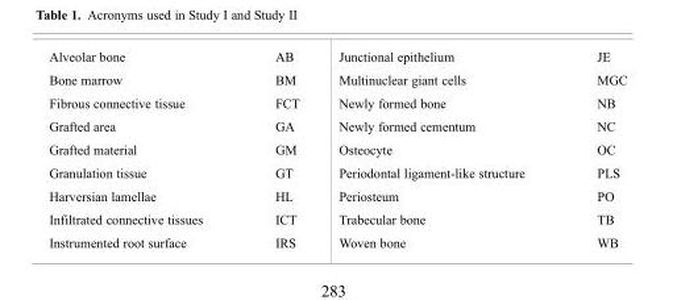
<table><tbody><tr><td>Alveolar bone</td><td>AB</td><td>Junctional epithelium</td><td>JE</td></tr><tr><td>Bone marrow</td><td>BM</td><td>Multinuclear giant cells</td><td>MGC</td></tr><tr><td>Fibrous connective tissue</td><td>FCT</td><td>Newly formed bone</td><td>NB</td></tr><tr><td>Grafted area</td><td>GA</td><td>Newly formed cementum</td><td>NC</td></tr><tr><td>Grafted material</td><td>GM</td><td>Osteocyte</td><td>OC</td></tr><tr><td>Granulation tissue</td><td>GT</td><td>Periodontal ligament-like structure</td><td>PLS</td></tr><tr><td>Harversian lamellae</td><td>HL</td><td>Periosteum</td><td>PO</td></tr><tr><td>Infiltrated connective tissues</td><td>ICT</td><td>Trabecular bone</td><td>TB</td></tr><tr><td>Instrumented root surface</td><td>IRS</td><td>Woven bone</td><td>WB</td></tr></tbody></table>